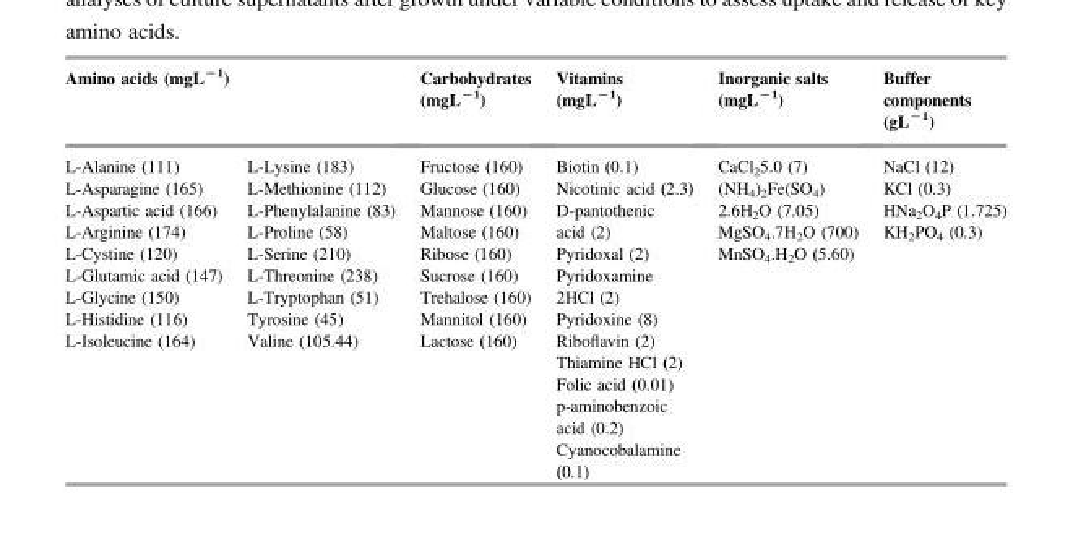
<table><thead><tr><td colspan="2">Amino acids (mgL<sup>−1</sup>)</td><td rowspan="2">Carbohydrates (mgL<sup>−1</sup>) Fructose (160) Glucose (160) Mannose (160) Maltose (160) Ribose (160) Sucrose (160) Trehalose (160) Mannitol (160) Lactose (160)</td><td rowspan="2">Vitamins (mgL<sup>−1</sup>) Biotin (0.1) Nicotinic acid (2.3) D-pantothenic acid (2) Pyridoxal (2) Pyridoxamine 2HCl (2) Pyridoxine (8) Riboflavin (2) Thiamine HCl (2) Folic acid (0.01) p-aminobenzoic acid (0.2) Cyanocobalamine (0.1)</td><td rowspan="2">Inorganic salts (mgL<sup>−1</sup>) CaCl<sub>2</sub>5.0 (7) (NH<sub>4</sub>)<sub>2</sub>Fe(SO<sub>4</sub>) 2.6H<sub>2</sub>O (7.05) MgSO<sub>4</sub>.7H<sub>2</sub>O (700) MnSO<sub>4</sub>.H<sub>2</sub>O (5.60)</td><td rowspan="2">Buffer components (gL<sup>−1</sup>) NaCl (12) KCl (0.3) HNa<sub>2</sub>O<sub>4</sub>P (1.725) KH<sub>2</sub>PO<sub>4</sub> (0.3)</td></tr><tr><td>L-Alanine (111) L-Asparagine (165) L-Aspartic acid (166) L-Arginine (174) L-Cystine (120) L-Glutamic acid (147) L-Glycine (150) L-Histidine (116) L-Isoleucine (164)</td><td>L-Lysine (183) L-Methionine (112) L-Phenylalanine (83) L-Proline (58) L-Serine (210) L-Threonine (238) L-Tryptophan (51) Tyrosine (45) Valine (105.44)</td></tr></thead><tbody></tbody></table>